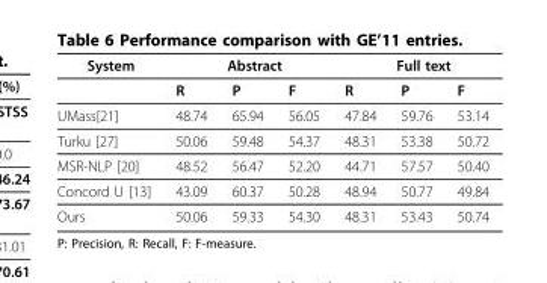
<table><thead><tr><td rowspan="2">System</td><td colspan="3">Abstract</td><td colspan="3">Full text</td></tr><tr><td>R</td><td>P</td><td>F</td><td>R</td><td>P</td><td>F</td></tr></thead><tbody><tr><td>UMass[21]</td><td>48.74</td><td>65.94</td><td>56.05</td><td>47.84</td><td>59.76</td><td>53.14</td></tr><tr><td>Turku [27]</td><td>50.06</td><td>59.48</td><td>54.37</td><td>48.31</td><td>53.38</td><td>50.72</td></tr><tr><td>MSR-NLP [20]</td><td>48.52</td><td>56.47</td><td>52.20</td><td>44.71</td><td>57.57</td><td>50.40</td></tr><tr><td>Concord U [13]</td><td>43.09</td><td>60.37</td><td>50.28</td><td>48.94</td><td>50.77</td><td>49.84</td></tr><tr><td>Ours</td><td>50.06</td><td>59.33</td><td>54.30</td><td>48.31</td><td>53.43</td><td>50.74</td></tr></tbody></table>